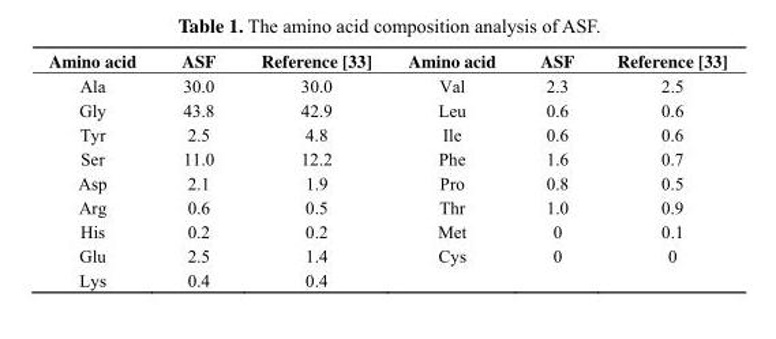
<table><thead><tr><td>Amino acid</td><td>ASF</td><td>Reference [33]</td><td>Amino acid</td><td>ASF</td><td>Reference [33]</td></tr></thead><tbody><tr><td>Ala</td><td>30.0</td><td>30.0</td><td>Val</td><td>2.3</td><td>2.5</td></tr><tr><td>Gly</td><td>43.8</td><td>42.9</td><td>Leu</td><td>0.6</td><td>0.6</td></tr><tr><td>Tyr</td><td>2.5</td><td>4.8</td><td>Ile</td><td>0.6</td><td>0.6</td></tr><tr><td>Ser</td><td>11.0</td><td>12.2</td><td>Phe</td><td>1.6</td><td>0.7</td></tr><tr><td>Asp</td><td>2.1</td><td>1.9</td><td>Pro</td><td>0.8</td><td>0.5</td></tr><tr><td>Arg</td><td>0.6</td><td>0.5</td><td>Thr</td><td>1.0</td><td>0.9</td></tr><tr><td>His</td><td>0.2</td><td>0.2</td><td>Met</td><td>0</td><td>0.1</td></tr><tr><td>Glu</td><td>2.5</td><td>1.4</td><td>Cys</td><td>0</td><td>0</td></tr><tr><td>Lys</td><td>0.4</td><td>0.4</td><td></td><td></td><td></td></tr></tbody></table>